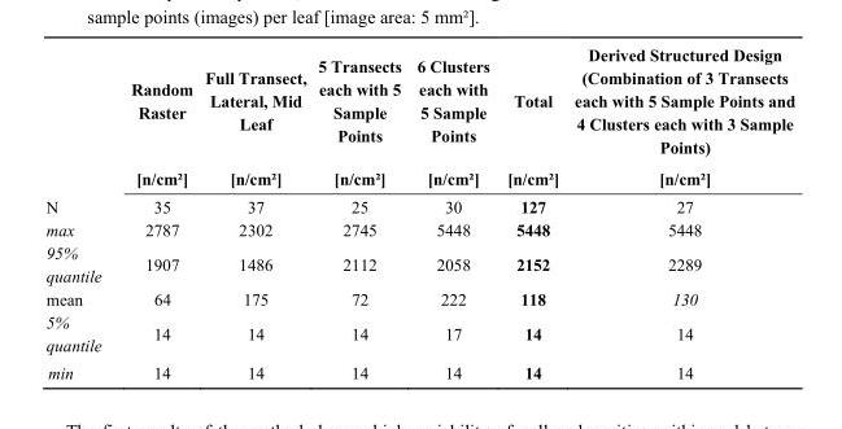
<table><thead><tr><td rowspan="2"></td><td rowspan="2">Random Raster [n/cm²]</td><td rowspan="2">Full Transect, Lateral, Mid Leaf [n/cm²]</td><td rowspan="2">5 Transects each with 5 Sample Points [n/cm²]</td><td rowspan="2">6 Clusters each with 5 Sample Points [n/cm²]</td><td rowspan="2">Total [n/cm²]</td><td rowspan="2">Derived Structured Design (Combination of 3 Transects each with 5 Sample Points and 4 Clusters each with 3 Sample Points) [n/cm²]</td></tr><tr></tr></thead><tbody><tr><td>N</td><td>35</td><td>37</td><td>25</td><td>30</td><td>127</td><td>27</td></tr><tr><td>max</td><td>2787</td><td>2302</td><td>2745</td><td>5448</td><td>5448</td><td>5448</td></tr><tr><td>95% quantile</td><td>1907</td><td>1486</td><td>2112</td><td>2058</td><td>2152</td><td>2289</td></tr><tr><td>mean</td><td>64</td><td>175</td><td>72</td><td>222</td><td>118</td><td>130</td></tr><tr><td>5% quantile</td><td>14</td><td>14</td><td>14</td><td>17</td><td>14</td><td>14</td></tr><tr><td>min</td><td>14</td><td>14</td><td>14</td><td>14</td><td>14</td><td>14</td></tr></tbody></table>